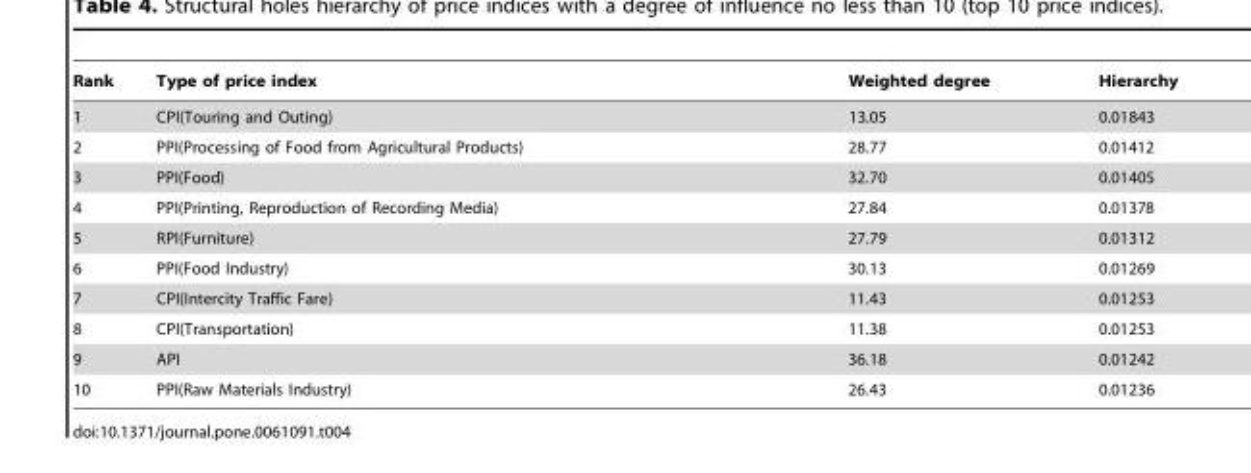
<table><thead><tr><td>Rank</td><td>Type of price index</td><td>Weighted degree</td><td>Hierarchy</td></tr></thead><tbody><tr><td>1</td><td>CPI(Touring and Outing)</td><td>13.05</td><td>0.01843</td></tr><tr><td>2</td><td>PPI(Processing of Food from Agricultural Products)</td><td>28.77</td><td>0.01412</td></tr><tr><td>3</td><td>PPI(Food)</td><td>32.70</td><td>0.01405</td></tr><tr><td>4</td><td>PPI(Printing, Reproduction of Recording Media)</td><td>27.84</td><td>0.01378</td></tr><tr><td>5</td><td>RPI(Furniture)</td><td>27.79</td><td>0.01312</td></tr><tr><td>6</td><td>PPI(Food Industry)</td><td>30.13</td><td>0.01269</td></tr><tr><td>7</td><td>CPI(Intercity Traffic Fare)</td><td>11.43</td><td>0.01253</td></tr><tr><td>8</td><td>CPI(Transportation)</td><td>11.38</td><td>0.01253</td></tr><tr><td>9</td><td>API</td><td>36.18</td><td>0.01242</td></tr><tr><td>10</td><td>PPI(Raw Materials Industry)</td><td>26.43</td><td>0.01236</td></tr></tbody></table>